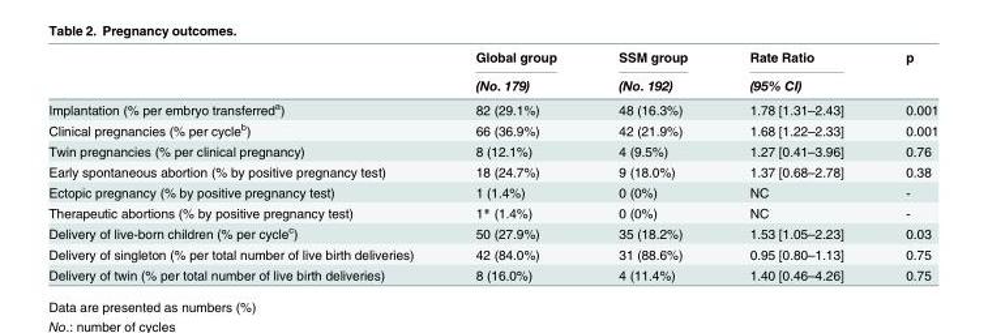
<table><thead><tr><td rowspan="2"></td><td rowspan="2">Global group (No. 179)</td><td rowspan="2">SSM group (No. 192)</td><td rowspan="2">Rate Ratio (95% CI)</td><td rowspan="2">p</td></tr><tr></tr></thead><tbody><tr><td>Implantation (% per embryo transferred<sup>a</sup>)</td><td>82 (29.1%)</td><td>48 (16.3%)</td><td>1.78 [1.31–2.43]</td><td>0.001</td></tr><tr><td>Clinical pregnancies (% per cycle<sup>b</sup>)</td><td>66 (36.9%)</td><td>42 (21.9%)</td><td>1.68 [1.22–2.33]</td><td>0.001</td></tr><tr><td>Twin pregnancies (% per clinical pregnancy)</td><td>8 (12.1%)</td><td>4 (9.5%)</td><td>1.27 [0.41–3.96]</td><td>0.76</td></tr><tr><td>Early spontaneous abortion (% by positive pregnancy test)</td><td>18 (24.7%)</td><td>9 (18.0%)</td><td>1.37 [0.68–2.78]</td><td>0.38</td></tr><tr><td>Ectopic pregnancy (% by positive pregnancy test)</td><td>1 (1.4%)</td><td>0 (0%)</td><td>NC</td><td>-</td></tr><tr><td>Therapeutic abortions (% by positive pregnancy test)</td><td>1* (1.4%)</td><td>0 (0%)</td><td>NC</td><td>-</td></tr><tr><td>Delivery of live-born children (% per cycle<sup>c</sup>)</td><td>50 (27.9%)</td><td>35 (18.2%)</td><td>1.53 [1.05–2.23]</td><td>0.03</td></tr><tr><td>Delivery of singleton (% per total number of live birth deliveries)</td><td>42 (84.0%)</td><td>31 (88.6%)</td><td>0.95 [0.80–1.13]</td><td>0.75</td></tr><tr><td>Delivery of twin (% per total number of live birth deliveries)</td><td>8 (16.0%)</td><td>4 (11.4%)</td><td>1.40 [0.46–4.26]</td><td>0.75</td></tr></tbody></table>